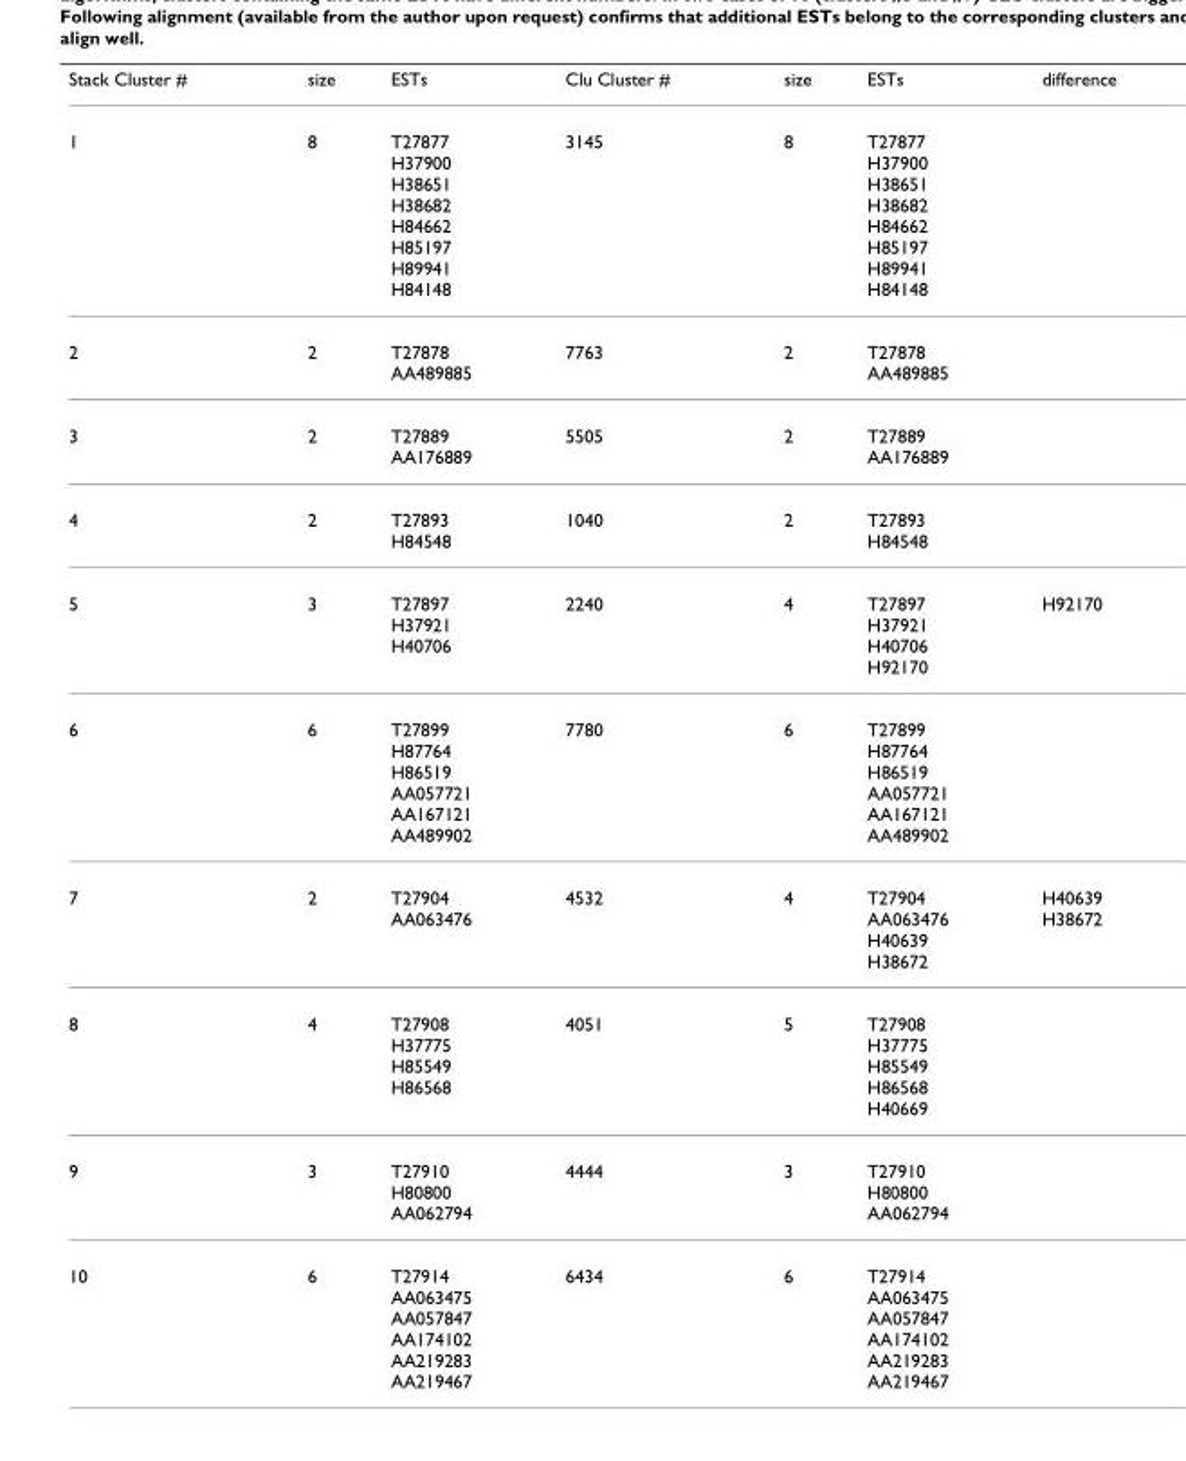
<table><thead><tr><td>Stack Cluster #</td><td>size</td><td>ESTs</td><td>Clu Cluster #</td><td>size</td><td>ESTs</td><td>difference</td></tr></thead><tbody><tr><td>1</td><td>8</td><td>T27877 H37900 H38651 H38682 H84662 H85197 H89941 H84148</td><td>3145</td><td>8</td><td>T27877 H37900 H38651 H38682 H84662 H85197 H89941 H84148</td><td></td></tr><tr><td>2</td><td>2</td><td>T27878 AA489885</td><td>7763</td><td>2</td><td>T27878 AA489885</td><td></td></tr><tr><td>3</td><td>2</td><td>T27889 AA176889</td><td>5505</td><td>2</td><td>T27889 AA176889</td><td></td></tr><tr><td>4</td><td>2</td><td>T27893 H84548</td><td>1040</td><td>2</td><td>T27893 H84548</td><td></td></tr><tr><td>5</td><td>3</td><td>T27897 H37921 H40706</td><td>2240</td><td>4</td><td>T27897 H37921 H40706 H92170</td><td>H92170</td></tr><tr><td>6</td><td>6</td><td>T27899 H87764 H86519 AA057721 AA167121 AA489902</td><td>7780</td><td>6</td><td>T27899 H87764 H86519 AA057721 AA167121 AA489902</td><td></td></tr><tr><td>7</td><td>2</td><td>T27904 AA063476</td><td>4532</td><td>4</td><td>T27904 AA063476 H40639 H38672</td><td>H40639 H38672</td></tr><tr><td>8</td><td>4</td><td>T27908 H37775 H85549 H86568</td><td>4051</td><td>5</td><td>T27908 H37775 H85549 H86568 H40669</td><td></td></tr><tr><td>9</td><td>3</td><td>T27910 H80800 AA062794</td><td>4444</td><td>3</td><td>T27910 H80800 AA062794</td><td></td></tr><tr><td>10</td><td>6</td><td>T27914 AA063475 AA057847 AA174102 AA219283 AA219467</td><td>6434</td><td>6</td><td>T27914 AA063475 AA057847 AA174102 AA219283 AA219467</td><td></td></tr></tbody></table>